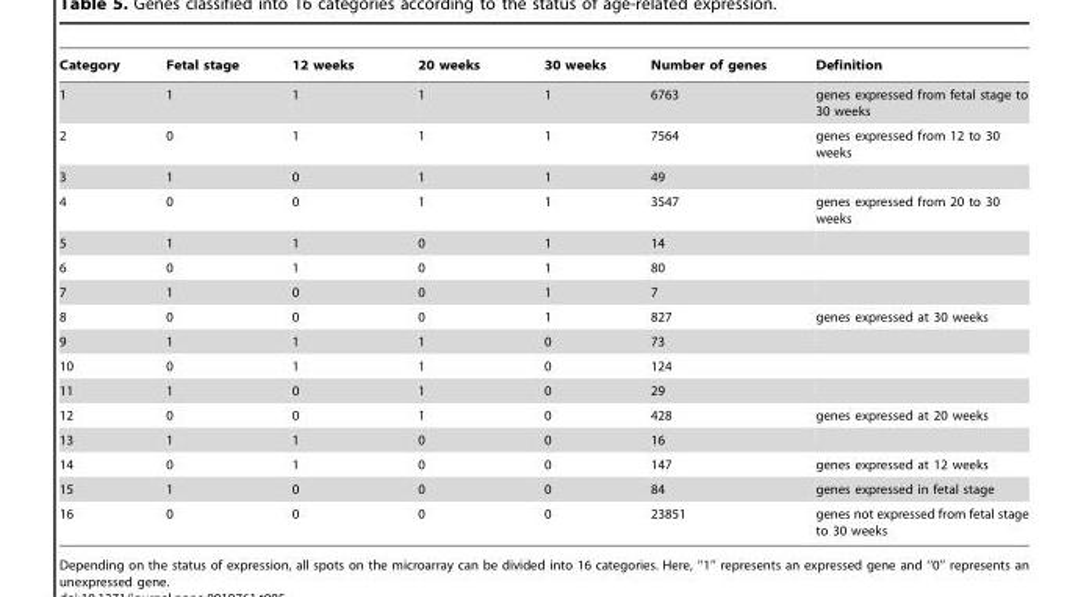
<table><thead><tr><td>Category</td><td>Fetal stage</td><td>12 weeks</td><td>20 weeks</td><td>30 weeks</td><td>Number of genes</td><td>Definition</td></tr></thead><tbody><tr><td>1</td><td>1</td><td>1</td><td>1</td><td>1</td><td>6763</td><td>genes expressed from fetal stage to 30 weeks</td></tr><tr><td>2</td><td>0</td><td>1</td><td>1</td><td>1</td><td>7564</td><td>genes expressed from 12 to 30 weeks</td></tr><tr><td>3</td><td>1</td><td>0</td><td>1</td><td>1</td><td>49</td><td></td></tr><tr><td>4</td><td>0</td><td>0</td><td>1</td><td>1</td><td>3547</td><td>genes expressed from 20 to 30 weeks</td></tr><tr><td>5</td><td>1</td><td>1</td><td>0</td><td>1</td><td>14</td><td></td></tr><tr><td>6</td><td>0</td><td>1</td><td>0</td><td>1</td><td>80</td><td></td></tr><tr><td>7</td><td>1</td><td>0</td><td>0</td><td>1</td><td>7</td><td></td></tr><tr><td>8</td><td>0</td><td>0</td><td>0</td><td>1</td><td>827</td><td>genes expressed at 30 weeks</td></tr><tr><td>9</td><td>1</td><td>1</td><td>1</td><td>0</td><td>73</td><td></td></tr><tr><td>10</td><td>0</td><td>1</td><td>1</td><td>0</td><td>124</td><td></td></tr><tr><td>11</td><td>1</td><td>0</td><td>1</td><td>0</td><td>29</td><td></td></tr><tr><td>12</td><td>0</td><td>0</td><td>1</td><td>0</td><td>428</td><td>genes expressed at 20 weeks</td></tr><tr><td>13</td><td>1</td><td>1</td><td>0</td><td>0</td><td>16</td><td></td></tr><tr><td>14</td><td>0</td><td>1</td><td>0</td><td>0</td><td>147</td><td>genes expressed at 12 weeks</td></tr><tr><td>15</td><td>1</td><td>0</td><td>0</td><td>0</td><td>84</td><td>genes expressed in fetal stage</td></tr><tr><td>16</td><td>0</td><td>0</td><td>0</td><td>0</td><td>23851</td><td>genes not expressed from fetal stage to 30 weeks</td></tr></tbody></table>